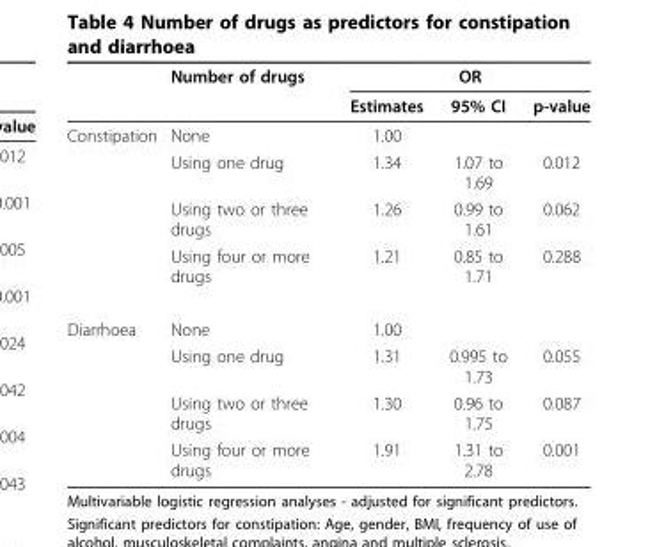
<table><thead><tr><td rowspan="2"></td><td rowspan="2">Number of drugs</td><td colspan="3">OR</td></tr><tr><td>Estimates</td><td>95% CI</td><td>p-value</td></tr></thead><tbody><tr><td rowspan="4">Constipation</td><td>None</td><td>1.00</td><td></td><td></td></tr><tr><td>Using one drug</td><td>1.34</td><td>1.07 to 1.69</td><td>0.012</td></tr><tr><td>Using two or three drugs</td><td>1.26</td><td>0.99 to 1.61</td><td>0.062</td></tr><tr><td>Using four or more drugs</td><td>1.21</td><td>0.85 to 1.71</td><td>0.288</td></tr><tr><td rowspan="4">Diarrhoea</td><td>None</td><td>1.00</td><td></td><td></td></tr><tr><td>Using one drug</td><td>1.31</td><td>0.995 to 1.73</td><td>0.055</td></tr><tr><td>Using two or three drugs</td><td>1.30</td><td>0.96 to 1.75</td><td>0.087</td></tr><tr><td>Using four or more drugs</td><td>1.91</td><td>1.31 to 2.78</td><td>0.001</td></tr></tbody></table>